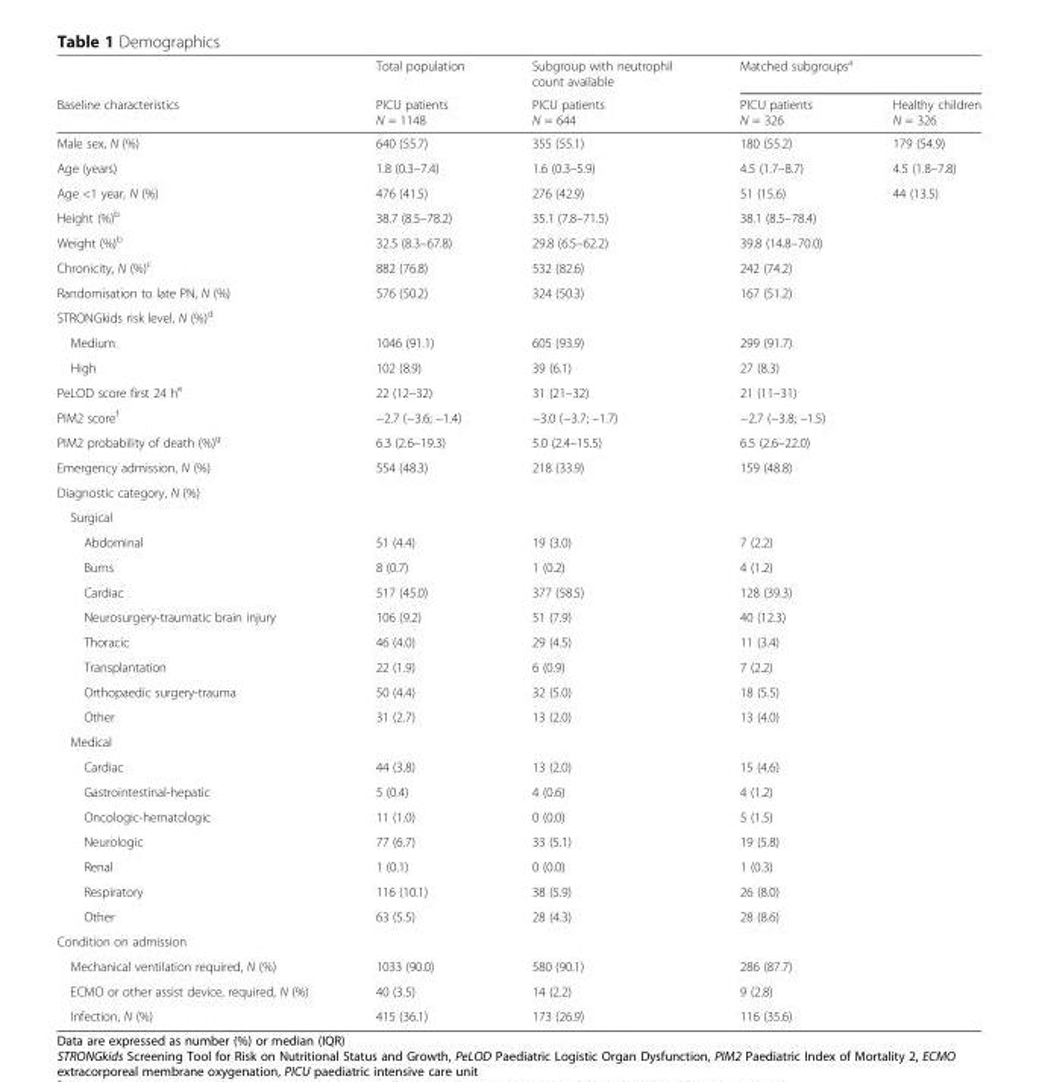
<table><thead><tr><td rowspan="2">Baseline characteristics</td><td rowspan="2">Total population PICU patients N = 1148</td><td rowspan="2">Subgroup with neutrophil count available PICU patients N = 644</td><td colspan="2">Matched subgroups<sup>a</sup></td></tr><tr><td>PICU patients N = 326</td><td>Healthy children N = 326</td></tr></thead><tbody><tr><td>Male sex, N (%)</td><td>640 (55.7)</td><td>355 (55.1)</td><td>180 (55.2)</td><td>179 (54.9)</td></tr><tr><td>Age (years)</td><td>1.8 (0.3–7.4)</td><td>1.6 (0.3–5.9)</td><td>4.5 (1.7–8.7)</td><td>4.5 (1.8–7.8)</td></tr><tr><td>Age &lt;1 year, N (%)</td><td>476 (41.5)</td><td>276 (42.9)</td><td>51 (15.6)</td><td>44 (13.5)</td></tr><tr><td>Height (%)<sup>b</sup></td><td>38.7 (8.5–78.2)</td><td>35.1 (7.8–71.5)</td><td>38.1 (8.5–78.4)</td><td></td></tr><tr><td>Weight (%)<sup>b</sup></td><td>32.5 (8.3–67.8)</td><td>29.8 (6.5–62.2)</td><td>39.8 (14.8–70.0)</td><td></td></tr><tr><td>Chronicity, N (%)<sup>c</sup></td><td>882 (76.8)</td><td>532 (82.6)</td><td>242 (74.2)</td><td></td></tr><tr><td>Randomisation to late PN, N (%)</td><td>576 (50.2)</td><td>324 (50.3)</td><td>167 (51.2)</td><td></td></tr><tr><td colspan="5">STRONGkids risk level, N (%)<sup>d</sup></td></tr><tr><td>Medium</td><td>1046 (91.1)</td><td>605 (93.9)</td><td>299 (91.7)</td><td></td></tr><tr><td>High</td><td>102 (8.9)</td><td>39 (6.1)</td><td>27 (8.3)</td><td></td></tr><tr><td>PeLOD score first 24 h<sup>e</sup></td><td>22 (12–32)</td><td>31 (21–32)</td><td>21 (11–31)</td><td></td></tr><tr><td>PIM2 score<sup>f</sup></td><td>−2.7 (−3.6; –1.4)</td><td>−3.0 (−3.7; –1.7)</td><td>−2.7 (−3.8; –1.5)</td><td></td></tr><tr><td>PIM2 probability of death (%)<sup>g</sup></td><td>6.3 (2.6–19.3)</td><td>5.0 (2.4–15.5)</td><td>6.5 (2.6–22.0)</td><td></td></tr><tr><td>Emergency admission, N (%)</td><td>554 (48.3)</td><td>218 (33.9)</td><td>159 (48.8)</td><td></td></tr><tr><td colspan="5">Diagnostic category, N (%)</td></tr><tr><td colspan="5">Surgical</td></tr><tr><td>Abdominal</td><td>51 (4.4)</td><td>19 (3.0)</td><td>7 (2.2)</td><td></td></tr><tr><td>Burns</td><td>8 (0.7)</td><td>1 (0.2)</td><td>4 (1.2)</td><td></td></tr><tr><td>Cardiac</td><td>517 (45.0)</td><td>377 (58.5)</td><td>128 (39.3)</td><td></td></tr><tr><td>Neurosurgery-traumatic brain injury</td><td>106 (9.2)</td><td>51 (7.9)</td><td>40 (12.3)</td><td></td></tr><tr><td>Thoracic</td><td>46 (4.0)</td><td>29 (4.5)</td><td>11 (3.4)</td><td></td></tr><tr><td>Transplantation</td><td>22 (1.9)</td><td>6 (0.9)</td><td>7 (2.2)</td><td></td></tr><tr><td>Orthopaedic surgery-trauma</td><td>50 (4.4)</td><td>32 (5.0)</td><td>18 (5.5)</td><td></td></tr><tr><td>Other</td><td>31 (2.7)</td><td>13 (2.0)</td><td>13 (4.0)</td><td></td></tr><tr><td colspan="5">Medical</td></tr><tr><td>Cardiac</td><td>44 (3.8)</td><td>13 (2.0)</td><td>15 (4.6)</td><td></td></tr><tr><td>Gastrointestinal-hepatic</td><td>5 (0.4)</td><td>4 (0.6)</td><td>4 (1.2)</td><td></td></tr><tr><td>Oncologic-hematologic</td><td>11 (1.0)</td><td>0 (0.0)</td><td>5 (1.5)</td><td></td></tr><tr><td>Neurologic</td><td>77 (6.7)</td><td>33 (5.1)</td><td>19 (5.8)</td><td></td></tr><tr><td>Renal</td><td>1 (0.1)</td><td>0 (0.0)</td><td>1 (0.3)</td><td></td></tr><tr><td>Respiratory</td><td>116 (10.1)</td><td>38 (5.9)</td><td>26 (8.0)</td><td></td></tr><tr><td>Other</td><td>63 (5.5)</td><td>28 (4.3)</td><td>28 (8.6)</td><td></td></tr><tr><td colspan="5">Condition on admission</td></tr><tr><td>Mechanical ventilation required, N (%)</td><td>1033 (90.0)</td><td>580 (90.1)</td><td>286 (87.7)</td><td></td></tr><tr><td>ECMO or other assist device, required, N (%)</td><td>40 (3.5)</td><td>14 (2.2)</td><td>9 (2.8)</td><td></td></tr><tr><td>Infection, N (%)</td><td>415 (36.1)</td><td>173 (26.9)</td><td>116 (35.6)</td><td></td></tr></tbody></table>